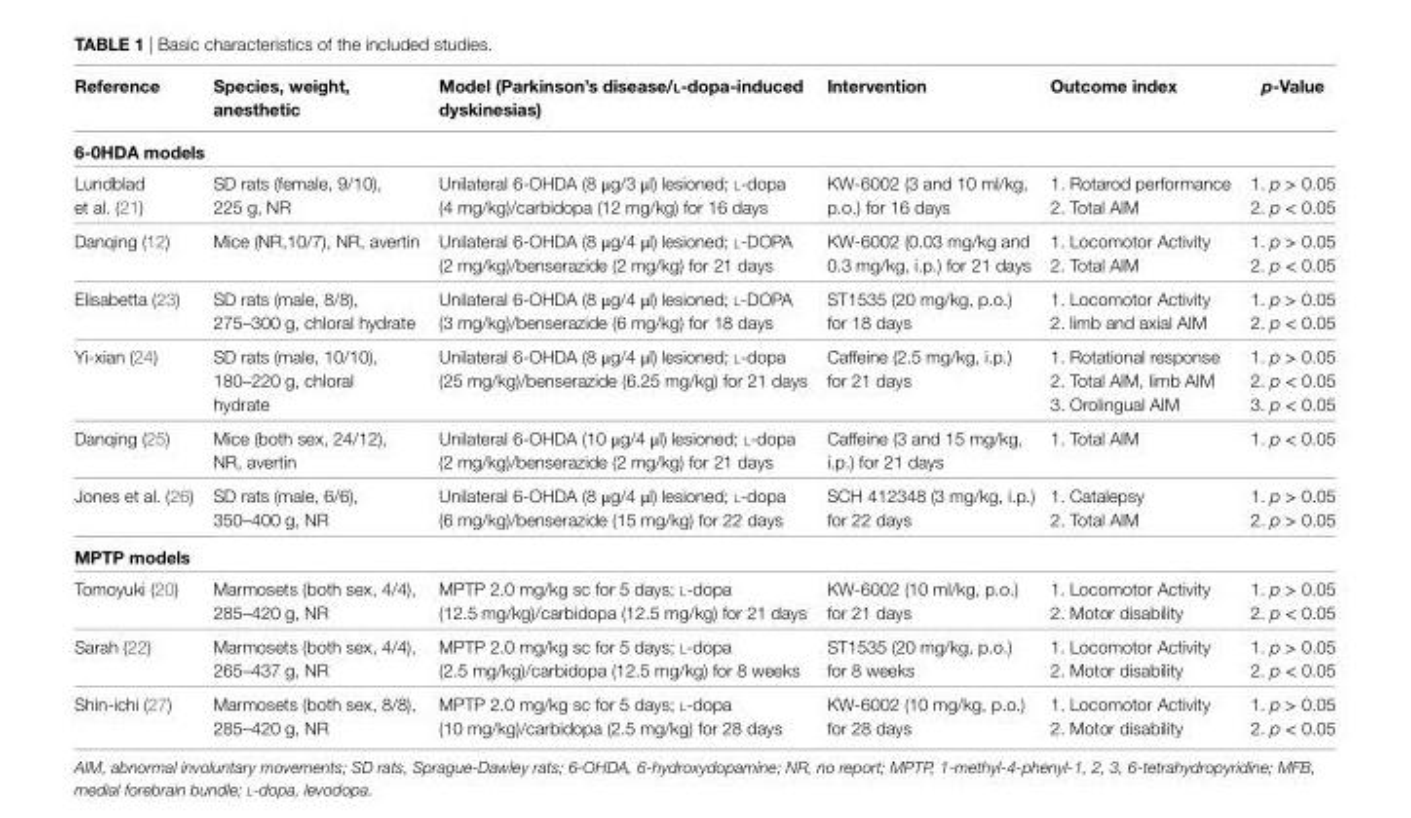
<table><thead><tr><td>Reference</td><td>Species, weight, anesthetic</td><td>Model (Parkinson’s disease/l-dopa-induced dyskinesias)</td><td>Intervention</td><td>Outcome index</td><td>p-Value</td></tr></thead><tbody><tr><td colspan="6">6-0HDA models</td></tr><tr><td>Lundblad et al. (21)</td><td>SD rats (female, 9/10), 225 g, NR</td><td>Unilateral 6-OHDA (8 μg/3 μl) lesioned; l-dopa (4 mg/kg)/carbidopa (12 mg/kg) for 16 days</td><td>KW-6002 (3 and 10 ml/kg, p.o.) for 16 days</td><td>1. Rotarod performance 2. Total AIM</td><td>1. p &gt; 0.05 2. p &lt; 0.05</td></tr><tr><td>Danqing (12)</td><td>Mice (NR,10/7), NR, avertin</td><td>Unilateral 6-OHDA (8 μg/4 μl) lesioned; l-DOPA (2 mg/kg)/benserazide (2 mg/kg) for 21 days</td><td>KW-6002 (0.03 mg/kg and 0.3 mg/kg, i.p.) for 21 days</td><td>1. Locomotor Activity 2. Total AIM</td><td>1. p &gt; 0.05 2. p &lt; 0.05</td></tr><tr><td>Elisabetta (23)</td><td>SD rats (male, 8/8), 275–300 g, chloral hydrate</td><td>Unilateral 6-OHDA (8 μg/4 μl) lesioned; l-DOPA (3 mg/kg)/benserazide (6 mg/kg) for 18 days</td><td>ST1535 (20 mg/kg, p.o.) for 18 days</td><td>1. Locomotor Activity 2. limb and axial AIM</td><td>1. p &gt; 0.05 2. p &lt; 0.05</td></tr><tr><td>Yi-xian (24)</td><td>SD rats (male, 10/10), 180–220 g, chloral hydrate</td><td>Unilateral 6-OHDA (8 μg/4 μl) lesioned; l-dopa (25 mg/kg)/benserazide (6.25 mg/kg) for 21 days</td><td>Caffeine (2.5 mg/kg, i.p.) for 21 days</td><td>1. Rotational response 2. Total AIM, limb AIM 3. Orolingual AIM</td><td>1. p &gt; 0.05 2. p &lt; 0.05 3. p &lt; 0.05</td></tr><tr><td>Danqing (25)</td><td>Mice (both sex, 24/12), NR, avertin</td><td>Unilateral 6-OHDA (10 μg/4 μl) lesioned; l-dopa (2 mg/kg)/benserazide (2 mg/kg) for 21 days</td><td>Caffeine (3 and 15 mg/kg, i.p.) for 21 days</td><td>1. Total AIM</td><td>1. p &lt; 0.05</td></tr><tr><td>Jones et al. (26)</td><td>SD rats (male, 6/6), 350–400 g, NR</td><td>Unilateral 6-OHDA (8 μg/4 μl) lesioned; l-dopa (6 mg/kg)/benserazide (15 mg/kg) for 22 days</td><td>SCH 412348 (3 mg/kg, i.p.) for 22 days</td><td>1. Catalepsy 2. Total AIM</td><td>1. p &gt; 0.05 2. p &gt; 0.05</td></tr><tr><td colspan="6">MPTP models</td></tr><tr><td>Tomoyuki (20)</td><td>Marmosets (both sex, 4/4), 285–420 g, NR</td><td>MPTP 2.0 mg/kg sc for 5 days; l-dopa (12.5 mg/kg)/carbidopa (12.5 mg/kg) for 21 days</td><td>KW-6002 (10 ml/kg, p.o.) for 21 days</td><td>1. Locomotor Activity 2. Motor disability</td><td>1. p &gt; 0.05 2. p &lt; 0.05</td></tr><tr><td>Sarah (22)</td><td>Marmosets (both sex, 4/4), 265–437 g, NR</td><td>MPTP 2.0 mg/kg sc for 5 days; l-dopa (2.5 mg/kg)/carbidopa (12.5 mg/kg) for 8 weeks</td><td>ST1535 (20 mg/kg, p.o.) for 8 weeks</td><td>1. Locomotor Activity 2. Motor disability</td><td>1. p &gt; 0.05 2. p &lt; 0.05</td></tr><tr><td>Shin-ichi (27)</td><td>Marmosets (both sex, 8/8), 285–420 g, NR</td><td>MPTP 2.0 mg/kg sc for 5 days; l-dopa (10 mg/kg)/carbidopa (2.5 mg/kg) for 28 days</td><td>KW-6002 (10 mg/kg, p.o.) for 28 days</td><td>1. Locomotor Activity 2. Motor disability</td><td>1. p &gt; 0.05 2. p &lt; 0.05</td></tr></tbody></table>